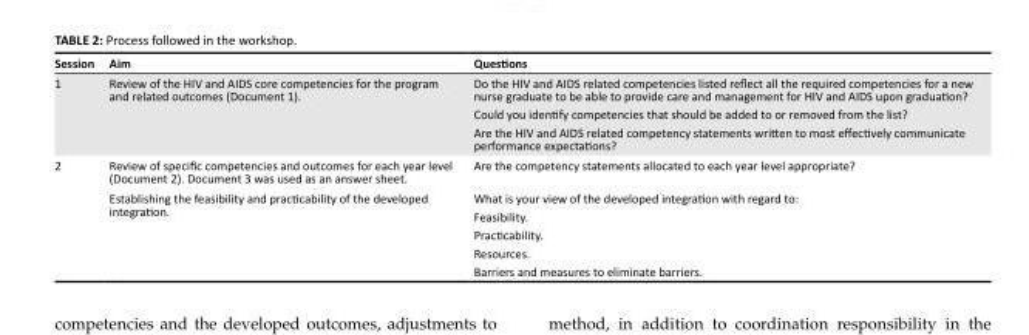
<table><thead><tr><td>Session</td><td>Aim</td><td>Questions</td></tr></thead><tbody><tr><td>1</td><td>Review of the HIV and AIDS core competencies for the program and related outcomes (Document 1).</td><td>Do the HIV and AIDS related competencies listed reflect all the required competencies for a new nurse graduate to be able to provide care and management for HIV and AIDS upon graduation? Could you identify competencies that should be added to or removed from the list? Are the HIV and AIDS related competency statements written to most effectively communicate performance expectations?</td></tr><tr><td>2</td><td>Review of specific competencies and outcomes for each year level (Document 2). Document 3 was used as an answer sheet. Establishing the feasibility and practicability of the developed integration.</td><td>Are the competency statements allocated to each year level appropriate? What is your view of the developed integration with regard to: Feasibility. Practicability. Resources. Barriers and measures to eliminate barriers.</td></tr></tbody></table>